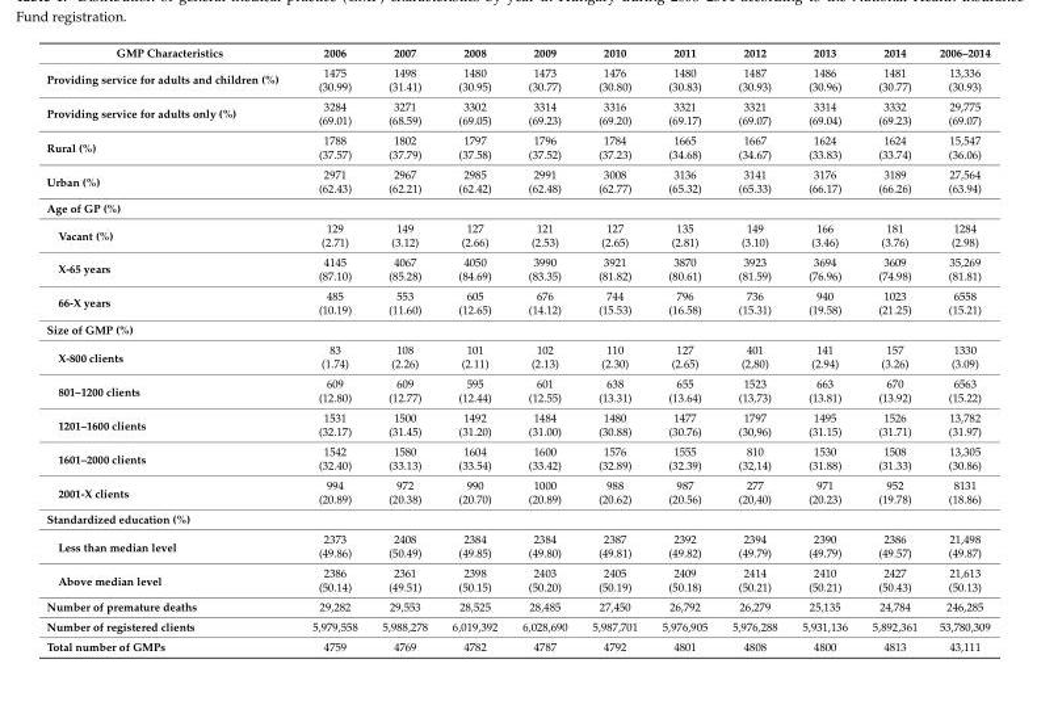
<table><thead><tr><td>GMP Characteristics</td><td>2006</td><td>2007</td><td>2008</td><td>2009</td><td>2010</td><td>2011</td><td>2012</td><td>2013</td><td>2014</td><td>2006–2014</td></tr></thead><tbody><tr><td rowspan="2">Providing service for adults and children (%)</td><td>1475</td><td>1498</td><td>1480</td><td>1473</td><td>1476</td><td>1480</td><td>1487</td><td>1486</td><td>1481</td><td>13,336</td></tr><tr><td>(30.99)</td><td>(31.41)</td><td>(30.95)</td><td>(30.77)</td><td>(30.80)</td><td>(30.83)</td><td>(30.93)</td><td>(30.96)</td><td>(30.77)</td><td>(30.93)</td></tr><tr><td rowspan="2">Providing service for adults only (%)</td><td>3284</td><td>3271</td><td>3302</td><td>3314</td><td>3316</td><td>3321</td><td>3321</td><td>3314</td><td>3332</td><td>29,775</td></tr><tr><td>(69.01)</td><td>(68.59)</td><td>(69.05)</td><td>(69.23)</td><td>(69.20)</td><td>(69.17)</td><td>(69.07)</td><td>(69.04)</td><td>(69.23)</td><td>(69.07)</td></tr><tr><td rowspan="2">Rural (%)</td><td>1788</td><td>1802</td><td>1797</td><td>1796</td><td>1784</td><td>1665</td><td>1667</td><td>1624</td><td>1624</td><td>15,547</td></tr><tr><td>(37.57)</td><td>(37.79)</td><td>(37.58)</td><td>(37.52)</td><td>(37.23)</td><td>(34.68)</td><td>(34.67)</td><td>(33.83)</td><td>(33.74)</td><td>(36.06)</td></tr><tr><td rowspan="2">Urban (%)</td><td>2971</td><td>2967</td><td>2985</td><td>2991</td><td>3008</td><td>3136</td><td>3141</td><td>3176</td><td>3189</td><td>27,564</td></tr><tr><td>(62.43)</td><td>(62.21)</td><td>(62.42)</td><td>(62.48)</td><td>(62.77)</td><td>(65.32)</td><td>(65.33)</td><td>(66.17)</td><td>(66.26)</td><td>(63.94)</td></tr><tr><td colspan="11">Age of GP (%)</td></tr><tr><td rowspan="2">Vacant (%)</td><td>129</td><td>149</td><td>127</td><td>121</td><td>127</td><td>135</td><td>149</td><td>166</td><td>181</td><td>1284</td></tr><tr><td>(2.71)</td><td>(3.12)</td><td>(2.66)</td><td>(2.53)</td><td>(2.65)</td><td>(2.81)</td><td>(3.10)</td><td>(3.46)</td><td>(3.76)</td><td>(2.98)</td></tr><tr><td rowspan="2">X-65 years</td><td>4145</td><td>4067</td><td>4050</td><td>3990</td><td>3921</td><td>3870</td><td>3923</td><td>3694</td><td>3609</td><td>35,269</td></tr><tr><td>(87.10)</td><td>(85.28)</td><td>(84.69)</td><td>(83.35)</td><td>(81.82)</td><td>(80.61)</td><td>(81.59)</td><td>(76.96)</td><td>(74.98)</td><td>(81.81)</td></tr><tr><td rowspan="2">66-X years</td><td>485</td><td>553</td><td>605</td><td>676</td><td>744</td><td>796</td><td>736</td><td>940</td><td>1023</td><td>6558</td></tr><tr><td>(10.19)</td><td>(11.60)</td><td>(12.65)</td><td>(14.12)</td><td>(15.53)</td><td>(16.58)</td><td>(15.31)</td><td>(19.58)</td><td>(21.25)</td><td>(15.21)</td></tr><tr><td colspan="11">Size of GMP (%)</td></tr><tr><td rowspan="2">X-800 clients</td><td>83</td><td>108</td><td>101</td><td>102</td><td>110</td><td>127</td><td>401</td><td>141</td><td>157</td><td>1330</td></tr><tr><td>(1.74)</td><td>(2.26)</td><td>(2.11)</td><td>(2.13)</td><td>(2.30)</td><td>(2.65)</td><td>(2,80)</td><td>(2.94)</td><td>(3.26)</td><td>(3.09)</td></tr><tr><td rowspan="2">801–1200 clients</td><td>609</td><td>609</td><td>595</td><td>601</td><td>638</td><td>655</td><td>1523</td><td>663</td><td>670</td><td>6563</td></tr><tr><td>(12.80)</td><td>(12.77)</td><td>(12.44)</td><td>(12.55)</td><td>(13.31)</td><td>(13.64)</td><td>(13,73)</td><td>(13.81)</td><td>(13.92)</td><td>(15.22)</td></tr><tr><td rowspan="2">1201–1600 clients</td><td>1531</td><td>1500</td><td>1492</td><td>1484</td><td>1480</td><td>1477</td><td>1797</td><td>1495</td><td>1526</td><td>13,782</td></tr><tr><td>(32.17)</td><td>(31.45)</td><td>(31.20)</td><td>(31.00)</td><td>(30.88)</td><td>(30.76)</td><td>(30,96)</td><td>(31.15)</td><td>(31.71)</td><td>(31.97)</td></tr><tr><td rowspan="2">1601–2000 clients</td><td>1542</td><td>1580</td><td>1604</td><td>1600</td><td>1576</td><td>1555</td><td>810</td><td>1530</td><td>1508</td><td>13,305</td></tr><tr><td>(32.40)</td><td>(33.13)</td><td>(33.54)</td><td>(33.42)</td><td>(32.89)</td><td>(32.39)</td><td>(32,14)</td><td>(31.88)</td><td>(31.33)</td><td>(30.86)</td></tr><tr><td rowspan="2">2001-X clients</td><td>994</td><td>972</td><td>990</td><td>1000</td><td>988</td><td>987</td><td>277</td><td>971</td><td>952</td><td>8131</td></tr><tr><td>(20.89)</td><td>(20.38)</td><td>(20.70)</td><td>(20.89)</td><td>(20.62)</td><td>(20.56)</td><td>(20,40)</td><td>(20.23)</td><td>(19.78)</td><td>(18.86)</td></tr><tr><td colspan="11">Standardized education (%)</td></tr><tr><td rowspan="2">Less than median level</td><td>2373</td><td>2408</td><td>2384</td><td>2384</td><td>2387</td><td>2392</td><td>2394</td><td>2390</td><td>2386</td><td>21,498</td></tr><tr><td>(49.86)</td><td>(50.49)</td><td>(49.85)</td><td>(49.80)</td><td>(49.81)</td><td>(49.82)</td><td>(49.79)</td><td>(49.79)</td><td>(49.57)</td><td>(49.87)</td></tr><tr><td rowspan="2">Above median level</td><td>2386</td><td>2361</td><td>2398</td><td>2403</td><td>2405</td><td>2409</td><td>2414</td><td>2410</td><td>2427</td><td>21,613</td></tr><tr><td>(50.14)</td><td>(49.51)</td><td>(50.15)</td><td>(50.20)</td><td>(50.19)</td><td>(50.18)</td><td>(50.21)</td><td>(50.21)</td><td>(50.43)</td><td>(50.13)</td></tr><tr><td>Number of premature deaths</td><td>29,282</td><td>29,553</td><td>28,525</td><td>28,485</td><td>27,450</td><td>26,792</td><td>26,279</td><td>25,135</td><td>24,784</td><td>246,285</td></tr><tr><td>Number of registered clients</td><td>5,979,558</td><td>5,988,278</td><td>6,019,392</td><td>6,028,690</td><td>5,987,701</td><td>5,976,905</td><td>5,976,288</td><td>5,931,136</td><td>5,892,361</td><td>53,780,309</td></tr><tr><td>Total number of GMPs</td><td>4759</td><td>4769</td><td>4782</td><td>4787</td><td>4792</td><td>4801</td><td>4808</td><td>4800</td><td>4813</td><td>43,111</td></tr></tbody></table>